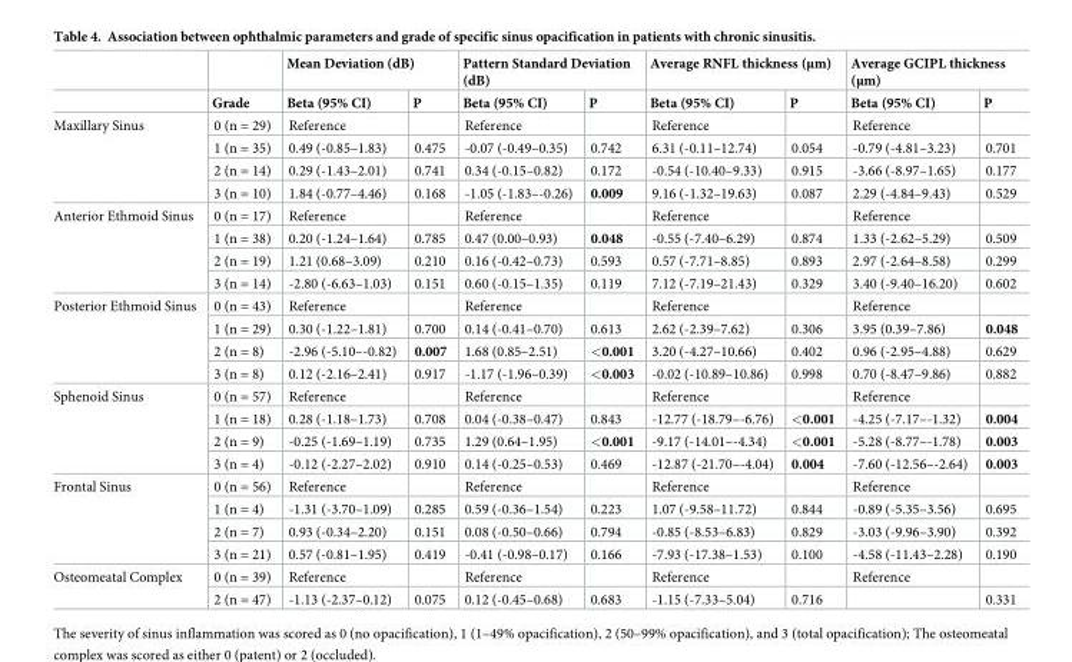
<table><thead><tr><td rowspan="2"></td><td rowspan="2">Grade</td><td colspan="2">Mean Deviation (dB)</td><td colspan="2">Pattern Standard Deviation (dB)</td><td colspan="2">Average RNFL thickness (μm)</td><td colspan="2">Average GCIPL thickness (μm)</td></tr><tr><td>Beta (95% CI)</td><td>P</td><td>Beta (95% CI)</td><td>P</td><td>Beta (95% CI)</td><td>P</td><td>Beta (95% CI)</td><td>P</td></tr></thead><tbody><tr><td rowspan="4">Maxillary Sinus</td><td>0 (n = 29)</td><td>Reference</td><td></td><td>Reference</td><td></td><td>Reference</td><td></td><td>Reference</td><td></td></tr><tr><td>1 (n = 35)</td><td>0.49 (-0.85–1.83)</td><td>0.475</td><td>-0.07 (-0.49–0.35)</td><td>0.742</td><td>6.31 (-0.11–12.74)</td><td>0.054</td><td>-0.79 (-4.81–3.23)</td><td>0.701</td></tr><tr><td>2 (n = 14)</td><td>0.29 (-1.43–2.01)</td><td>0.741</td><td>0.34 (-0.15–0.82)</td><td>0.172</td><td>-0.54 (-10.40–9.33)</td><td>0.915</td><td>-3.66 (-8.97–1.65)</td><td>0.177</td></tr><tr><td>3 (n = 10)</td><td>1.84 (-0.77–4.46)</td><td>0.168</td><td>-1.05 (-1.83–-0.26)</td><td>0.009</td><td>9.16 (-1.32–19.63)</td><td>0.087</td><td>2.29 (-4.84–9.43)</td><td>0.529</td></tr><tr><td rowspan="4">Anterior Ethmoid Sinus</td><td>0 (n = 17)</td><td>Reference</td><td></td><td>Reference</td><td></td><td>Reference</td><td></td><td>Reference</td><td></td></tr><tr><td>1 (n = 38)</td><td>0.20 (-1.24–1.64)</td><td>0.785</td><td>0.47 (0.00–0.93)</td><td>0.048</td><td>-0.55 (-7.40–6.29)</td><td>0.874</td><td>1.33 (-2.62–5.29)</td><td>0.509</td></tr><tr><td>2 (n = 19)</td><td>1.21 (0.68–3.09)</td><td>0.210</td><td>0.16 (-0.42–0.73)</td><td>0.593</td><td>0.57 (-7.71–8.85)</td><td>0.893</td><td>2.97 (-2.64–8.58)</td><td>0.299</td></tr><tr><td>3 (n = 14)</td><td>-2.80 (-6.63–1.03)</td><td>0.151</td><td>0.60 (-0.15–1.35)</td><td>0.119</td><td>7.12 (-7.19–21.43)</td><td>0.329</td><td>3.40 (-9.40–16.20)</td><td>0.602</td></tr><tr><td rowspan="4">Posterior Ethmoid Sinus</td><td>0 (n = 43)</td><td>Reference</td><td></td><td>Reference</td><td></td><td>Reference</td><td></td><td>Reference</td><td></td></tr><tr><td>1 (n = 29)</td><td>0.30 (-1.22–1.81)</td><td>0.700</td><td>0.14 (-0.41–0.70)</td><td>0.613</td><td>2.62 (-2.39–7.62)</td><td>0.306</td><td>3.95 (0.39–7.86)</td><td>0.048</td></tr><tr><td>2 (n = 8)</td><td>-2.96 (-5.10–-0.82)</td><td>0.007</td><td>1.68 (0.85–2.51)</td><td>&lt;0.001</td><td>3.20 (-4.27–10.66)</td><td>0.402</td><td>0.96 (-2.95–4.88)</td><td>0.629</td></tr><tr><td>3 (n = 8)</td><td>0.12 (-2.16–2.41)</td><td>0.917</td><td>-1.17 (-1.96–0.39)</td><td>&lt;0.003</td><td>-0.02 (-10.89–10.86)</td><td>0.998</td><td>0.70 (-8.47–9.86)</td><td>0.882</td></tr><tr><td rowspan="4">Sphenoid Sinus</td><td>0 (n = 57)</td><td>Reference</td><td></td><td>Reference</td><td></td><td>Reference</td><td></td><td>Reference</td><td></td></tr><tr><td>1 (n = 18)</td><td>0.28 (-1.18–1.73)</td><td>0.708</td><td>0.04 (-0.38–0.47)</td><td>0.843</td><td>-12.77 (-18.79–-6.76)</td><td>&lt;0.001</td><td>-4.25 (-7.17–-1.32)</td><td>0.004</td></tr><tr><td>2 (n = 9)</td><td>-0.25 (-1.69–1.19)</td><td>0.735</td><td>1.29 (0.64–1.95)</td><td>&lt;0.001</td><td>-9.17 (-14.01–-4.34)</td><td>&lt;0.001</td><td>-5.28 (-8.77–-1.78)</td><td>0.003</td></tr><tr><td>3 (n = 4)</td><td>-0.12 (-2.27–2.02)</td><td>0.910</td><td>0.14 (-0.25–0.53)</td><td>0.469</td><td>-12.87 (-21.70–-4.04)</td><td>0.004</td><td>-7.60 (-12.56–-2.64)</td><td>0.003</td></tr><tr><td rowspan="4">Frontal Sinus</td><td>0 (n = 56)</td><td>Reference</td><td></td><td>Reference</td><td></td><td>Reference</td><td></td><td>Reference</td><td></td></tr><tr><td>1 (n = 4)</td><td>-1.31 (-3.70–1.09)</td><td>0.285</td><td>0.59 (-0.36–1.54)</td><td>0.223</td><td>1.07 (-9.58–11.72)</td><td>0.844</td><td>-0.89 (-5.35–3.56)</td><td>0.695</td></tr><tr><td>2 (n = 7)</td><td>0.93 (-0.34–2.20)</td><td>0.151</td><td>0.08 (-0.50–0.66)</td><td>0.794</td><td>-0.85 (-8.53–6.83)</td><td>0.829</td><td>-3.03 (-9.96–3.90)</td><td>0.392</td></tr><tr><td>3 (n = 21)</td><td>0.57 (-0.81–1.95)</td><td>0.419</td><td>-0.41 (-0.98–0.17)</td><td>0.166</td><td>-7.93 (-17.38–1.53)</td><td>0.100</td><td>-4.58 (-11.43–2.28)</td><td>0.190</td></tr><tr><td rowspan="2">Osteomeatal Complex</td><td>0 (n = 39)</td><td>Reference</td><td></td><td>Reference</td><td></td><td>Reference</td><td></td><td>Reference</td><td></td></tr><tr><td>2 (n = 47)</td><td>-1.13 (-2.37–0.12)</td><td>0.075</td><td>0.12 (-0.45–0.68)</td><td>0.683</td><td>-1.15 (-7.33–5.04)</td><td>0.716</td><td></td><td>0.331</td></tr></tbody></table>